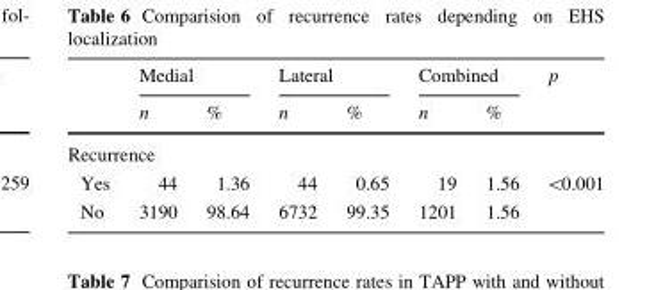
<table><thead><tr><td rowspan="2"></td><td colspan="2">Medial</td><td colspan="2">Lateral</td><td colspan="2">Combined</td><td rowspan="2">p</td></tr><tr><td>n</td><td>%</td><td>n</td><td>%</td><td>n</td><td>%</td></tr></thead><tbody><tr><td colspan="8">Recurrence</td></tr><tr><td>Yes</td><td>44</td><td>1.36</td><td>44</td><td>0.65</td><td>19</td><td>1.56</td><td>&lt;0.001</td></tr><tr><td>No</td><td>3190</td><td>98.64</td><td>6732</td><td>99.35</td><td>1201</td><td>1.56</td><td></td></tr></tbody></table>